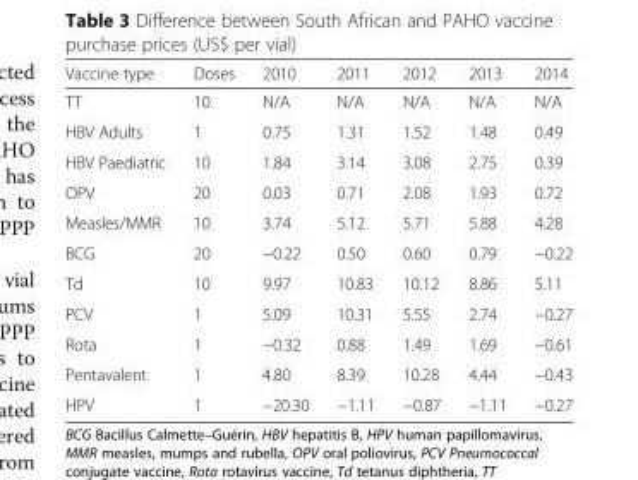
<table><thead><tr><td>Vaccine type</td><td>Doses</td><td>2010</td><td>2011</td><td>2012</td><td>2013</td><td>2014</td></tr></thead><tbody><tr><td>TT</td><td>10</td><td>N/A</td><td>N/A</td><td>N/A</td><td>N/A</td><td>N/A</td></tr><tr><td>HBV Adults</td><td>1</td><td>0.75</td><td>1.31</td><td>1.52</td><td>1.48</td><td>0.49</td></tr><tr><td>HBV Paediatric</td><td>10</td><td>1.84</td><td>3.14</td><td>3.08</td><td>2.75</td><td>0.39</td></tr><tr><td>OPV</td><td>20</td><td>0.03</td><td>0.71</td><td>2.08</td><td>1.93</td><td>0.72</td></tr><tr><td>Measles/MMR</td><td>10</td><td>3.74</td><td>5.12</td><td>5.71</td><td>5.88</td><td>4.28</td></tr><tr><td>BCG</td><td>20</td><td>−0.22</td><td>0.50</td><td>0.60</td><td>0.79</td><td>−0.22</td></tr><tr><td>Td</td><td>10</td><td>9.97</td><td>10.83</td><td>10.12</td><td>8.86</td><td>5.11</td></tr><tr><td>PCV</td><td>1</td><td>5.09</td><td>10.31</td><td>5.55</td><td>2.74</td><td>−0.27</td></tr><tr><td>Rota</td><td>1</td><td>−0.32</td><td>0.88</td><td>1.49</td><td>1.69</td><td>−0.61</td></tr><tr><td>Pentavalent</td><td>1</td><td>4.80</td><td>8.39</td><td>10.28</td><td>4.44</td><td>−0.43</td></tr><tr><td>HPV</td><td>1</td><td>−20.30</td><td>−1.11</td><td>−0.87</td><td>−1.11</td><td>−0.27</td></tr></tbody></table>